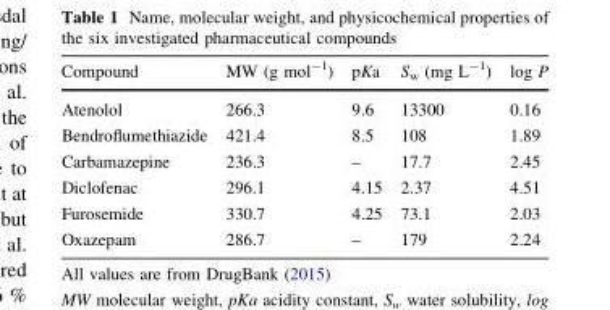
<table><thead><tr><td>Compound</td><td>MW (g mol<sup>-1</sup>)</td><td>pKa</td><td>S<sub>w</sub> (mg L<sup>-1</sup>)</td><td>log P</td></tr></thead><tbody><tr><td>Atenolol</td><td>266.3</td><td>9.6</td><td>13300</td><td>0.16</td></tr><tr><td>Bendroflumethiazide</td><td>421.4</td><td>8.5</td><td>108</td><td>1.89</td></tr><tr><td>Carbamazepine</td><td>236.3</td><td>–</td><td>17.7</td><td>2.45</td></tr><tr><td>Diclofenac</td><td>296.1</td><td>4.15</td><td>2.37</td><td>4.51</td></tr><tr><td>Furosemide</td><td>330.7</td><td>4.25</td><td>73.1</td><td>2.03</td></tr><tr><td>Oxazepam</td><td>286.7</td><td>–</td><td>179</td><td>2.24</td></tr></tbody></table>